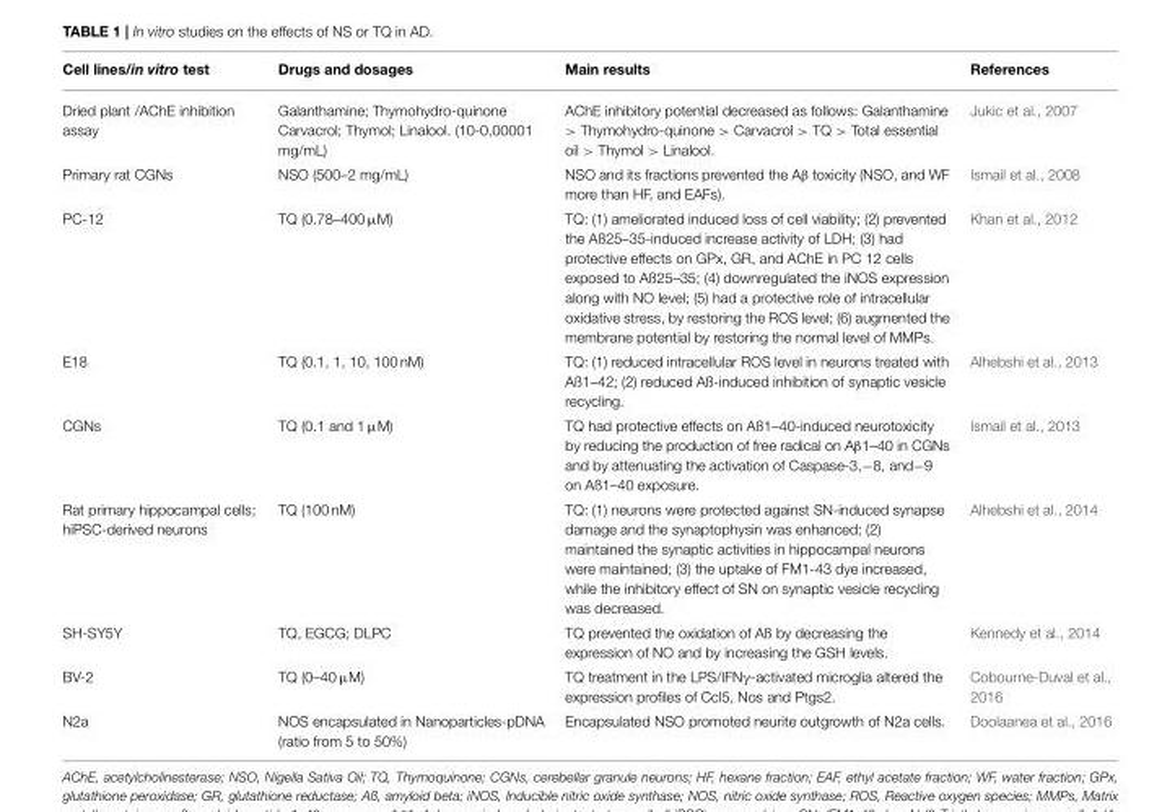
<table><thead><tr><td>Cell lines/in vitro test</td><td>Drugs and dosages</td><td>Main results</td><td>References</td></tr></thead><tbody><tr><td>Dried plant /AChE inhibition assay</td><td>Galanthamine; Thymohydro-quinone Carvacrol; Thymol; Linalool. (10-0,00001 mg/mL)</td><td>AChE inhibitory potential decreased as follows: Galanthamine &gt; Thymohydro-quinone &gt; Carvacrol &gt; TQ &gt; Total essential oil &gt; Thymol &gt; Linalool.</td><td>Jukic et al., 2007</td></tr><tr><td>Primary rat CGNs</td><td>NSO (500–2 mg/mL)</td><td>NSO and its fractions prevented the Aβ toxicity (NSO, and WF more than HF, and EAFs).</td><td>Ismail et al., 2008</td></tr><tr><td>PC-12</td><td>TQ (0.78–400 µM)</td><td>TQ: (1) ameliorated induced loss of cell viability; (2) prevented the Aß25–35-induced increase activity of LDH; (3) had protective effects on GPx, GR, and AChE in PC 12 cells exposed to Aß25–35; (4) downregulated the iNOS expression along with NO level; (5) had a protective role of intracellular oxidative stress, by restoring the ROS level; (6) augmented the membrane potential by restoring the normal level of MMPs.</td><td>Khan et al., 2012</td></tr><tr><td>E18</td><td>TQ (0.1, 1, 10, 100 nM)</td><td>TQ: (1) reduced intracellular ROS level in neurons treated with Aß1–42; (2) reduced Aß-induced inhibition of synaptic vesicle recycling.</td><td>Alhebshi et al., 2013</td></tr><tr><td>CGNs</td><td>TQ (0.1 and 1 µM)</td><td>TQ had protective effects on Aß1–40-induced neurotoxicity by reducing the production of free radical on Aβ1–40 in CGNs and by attenuating the activation of Caspase-3,−8, and−9 on Aß1–40 exposure.</td><td>Ismail et al., 2013</td></tr><tr><td>Rat primary hippocampal cells; hiPSC-derived neurons</td><td>TQ (100 nM)</td><td>TQ: (1) neurons were protected against SN-induced synapse damage and the synaptophysin was enhanced; (2) maintained the synaptic activities in hippocampal neurons were maintained; (3) the uptake of FM1-43 dye increased, while the inhibitory effect of SN on synaptic vesicle recycling was decreased.</td><td>Alhebshi et al., 2014</td></tr><tr><td>SH-SY5Y</td><td>TQ, EGCG; DLPC</td><td>TQ prevented the oxidation of Aß by decreasing the expression of NO and by increasing the GSH levels.</td><td>Kennedy et al., 2014</td></tr><tr><td>BV-2</td><td>TQ (0–40 µM)</td><td>TQ treatment in the LPS/IFNγ-activated microglia altered the expression profiles of Ccl5, Nos and Ptgs2.</td><td>Cobourne-Duval et al., 2016</td></tr><tr><td>N2a</td><td>NOS encapsulated in Nanoparticles-pDNA (ratio from 5 to 50%)</td><td>Encapsulated NSO promoted neurite outgrowth of N2a cells.</td><td>Doolaanea et al., 2016</td></tr></tbody></table>